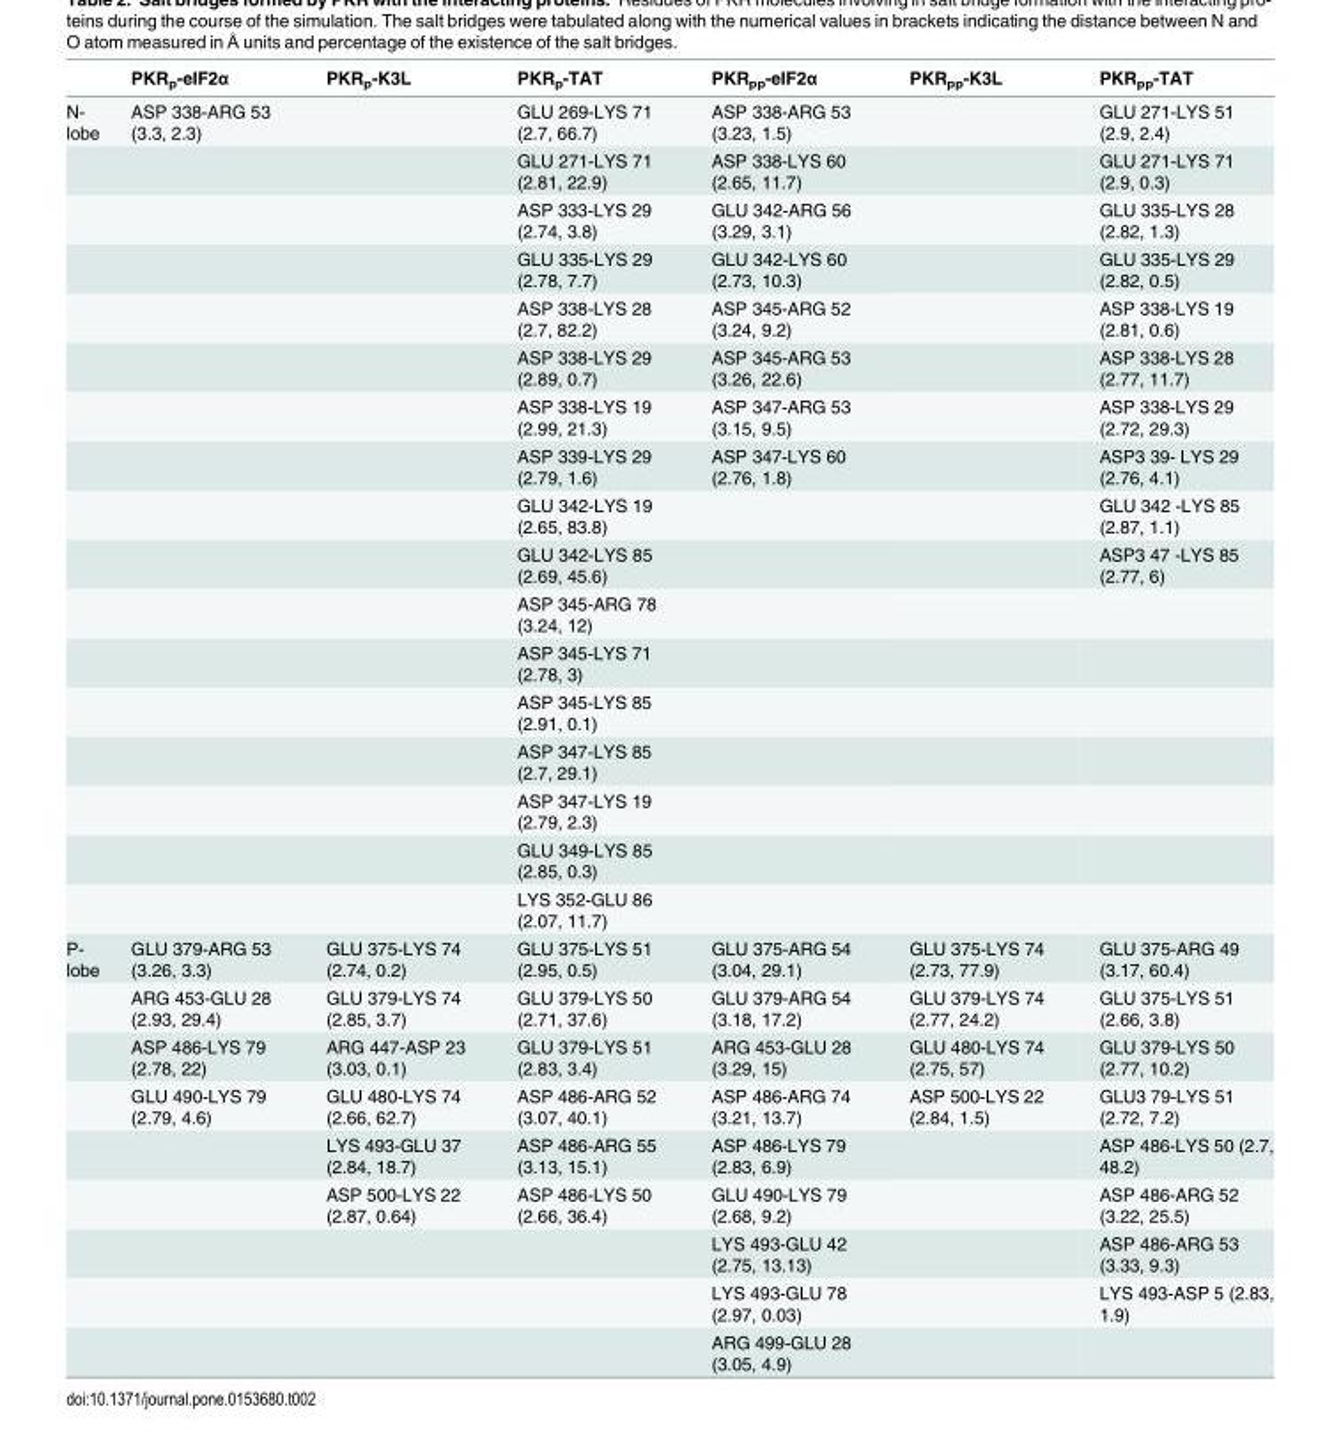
<table><thead><tr><td></td><td>PKR<sub>p</sub>-eIF2α</td><td>PKR<sub>p</sub>-K3L</td><td>PKR<sub>p</sub>-TAT</td><td>PKR<sub>pp</sub>-eIF2α</td><td>PKR<sub>pp</sub>-K3L</td><td>PKR<sub>pp</sub>-TAT</td></tr></thead><tbody><tr><td rowspan="17">N- lobe</td><td>ASP 338-ARG 53 (3.3, 2.3)</td><td></td><td>GLU 269-LYS 71 (2.7, 66.7)</td><td>ASP 338-ARG 53 (3.23, 1.5)</td><td></td><td>GLU 271-LYS 51 (2.9, 2.4)</td></tr><tr><td></td><td></td><td>GLU 271-LYS 71 (2.81, 22.9)</td><td>ASP 338-LYS 60 (2.65, 11.7)</td><td></td><td>GLU 271-LYS 71 (2.9, 0.3)</td></tr><tr><td></td><td></td><td>ASP 333-LYS 29 (2.74, 3.8)</td><td>GLU 342-ARG 56 (3.29, 3.1)</td><td></td><td>GLU 335-LYS 28 (2.82, 1.3)</td></tr><tr><td></td><td></td><td>GLU 335-LYS 29 (2.78, 7.7)</td><td>GLU 342-LYS 60 (2.73, 10.3)</td><td></td><td>GLU 335-LYS 29 (2.82, 0.5)</td></tr><tr><td></td><td></td><td>ASP 338-LYS 28 (2.7, 82.2)</td><td>ASP 345-ARG 52 (3.24, 9.2)</td><td></td><td>ASP 338-LYS 19 (2.81, 0.6)</td></tr><tr><td></td><td></td><td>ASP 338-LYS 29 (2.89, 0.7)</td><td>ASP 345-ARG 53 (3.26, 22.6)</td><td></td><td>ASP 338-LYS 28 (2.77, 11.7)</td></tr><tr><td></td><td></td><td>ASP 338-LYS 19 (2.99, 21.3)</td><td>ASP 347-ARG 53 (3.15, 9.5)</td><td></td><td>ASP 338-LYS 29 (2.72, 29.3)</td></tr><tr><td></td><td></td><td>ASP 339-LYS 29 (2.79, 1.6)</td><td>ASP 347-LYS 60 (2.76, 1.8)</td><td></td><td>ASP3 39- LYS 29 (2.76, 4.1)</td></tr><tr><td></td><td></td><td>GLU 342-LYS 19 (2.65, 83.8)</td><td></td><td></td><td>GLU 342 -LYS 85 (2.87, 1.1)</td></tr><tr><td></td><td></td><td>GLU 342-LYS 85 (2.69, 45.6)</td><td></td><td></td><td>ASP3 47 -LYS 85 (2.77, 6)</td></tr><tr><td></td><td></td><td>ASP 345-ARG 78 (3.24, 12)</td><td></td><td></td><td></td></tr><tr><td></td><td></td><td>ASP 345-LYS 71 (2.78, 3)</td><td></td><td></td><td></td></tr><tr><td></td><td></td><td>ASP 345-LYS 85 (2.91, 0.1)</td><td></td><td></td><td></td></tr><tr><td></td><td></td><td>ASP 347-LYS 85 (2.7, 29.1)</td><td></td><td></td><td></td></tr><tr><td></td><td></td><td>ASP 347-LYS 19 (2.79, 2.3)</td><td></td><td></td><td></td></tr><tr><td></td><td></td><td>GLU 349-LYS 85 (2.85, 0.3)</td><td></td><td></td><td></td></tr><tr><td></td><td></td><td>LYS 352-GLU 86 (2.07, 11.7)</td><td></td><td></td><td></td></tr><tr><td rowspan="9">P- lobe</td><td>GLU 379-ARG 53 (3.26, 3.3)</td><td>GLU 375-LYS 74 (2.74, 0.2)</td><td>GLU 375-LYS 51 (2.95, 0.5)</td><td>GLU 375-ARG 54 (3.04, 29.1)</td><td>GLU 375-LYS 74 (2.73, 77.9)</td><td>GLU 375-ARG 49 (3.17, 60.4)</td></tr><tr><td>ARG 453-GLU 28 (2.93, 29.4)</td><td>GLU 379-LYS 74 (2.85, 3.7)</td><td>GLU 379-LYS 50 (2.71, 37.6)</td><td>GLU 379-ARG 54 (3.18, 17.2)</td><td>GLU 379-LYS 74 (2.77, 24.2)</td><td>GLU 375-LYS 51 (2.66, 3.8)</td></tr><tr><td>ASP 486-LYS 79 (2.78, 22)</td><td>ARG 447-ASP 23 (3.03, 0.1)</td><td>GLU 379-LYS 51 (2.83, 3.4)</td><td>ARG 453-GLU 28 (3.29, 15)</td><td>GLU 480-LYS 74 (2.75, 57)</td><td>GLU 379-LYS 50 (2.77, 10.2)</td></tr><tr><td>GLU 490-LYS 79 (2.79, 4.6)</td><td>GLU 480-LYS 74 (2.66, 62.7)</td><td>ASP 486-ARG 52 (3.07, 40.1)</td><td>ASP 486-ARG 74 (3.21, 13.7)</td><td>ASP 500-LYS 22 (2.84, 1.5)</td><td>GLU3 79-LYS 51 (2.72, 7.2)</td></tr><tr><td></td><td>LYS 493-GLU 37 (2.84, 18.7)</td><td>ASP 486-ARG 55 (3.13, 15.1)</td><td>ASP 486-LYS 79 (2.83, 6.9)</td><td></td><td>ASP 486-LYS 50 (2.7, 48.2)</td></tr><tr><td></td><td>ASP 500-LYS 22 (2.87, 0.64)</td><td>ASP 486-LYS 50 (2.66, 36.4)</td><td>GLU 490-LYS 79 (2.68, 9.2)</td><td></td><td>ASP 486-ARG 52 (3.22, 25.5)</td></tr><tr><td></td><td></td><td></td><td>LYS 493-GLU 42 (2.75, 13.13)</td><td></td><td>ASP 486-ARG 53 (3.33, 9.3)</td></tr><tr><td></td><td></td><td></td><td>LYS 493-GLU 78 (2.97, 0.03)</td><td></td><td>LYS 493-ASP 5 (2.83, 1.9)</td></tr><tr><td></td><td></td><td></td><td>ARG 499-GLU 28 (3.05, 4.9)</td><td></td><td></td></tr></tbody></table>